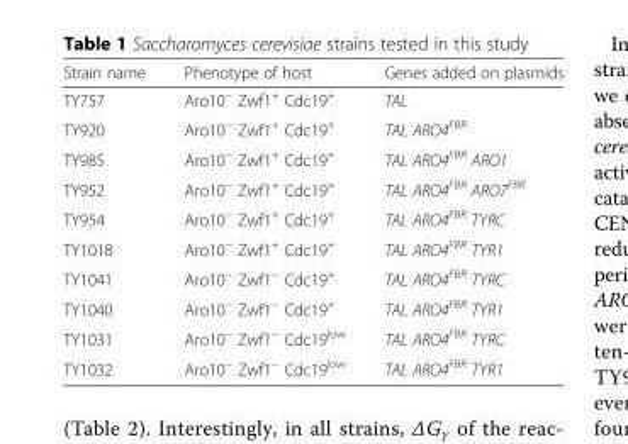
<table><thead><tr><td>Strain name</td><td>Phenotype of host</td><td>Genes added on plasmids</td></tr></thead><tbody><tr><td>TY757</td><td>Aro10<sup>−</sup> Zwf1<sup>+</sup> Cdc19<sup>+</sup></td><td>TAL</td></tr><tr><td>TY920</td><td>Aro10<sup>−</sup> Zwf1<sup>+</sup> Cdc19<sup>+</sup></td><td>TAL ARO4<sup>FBR</sup></td></tr><tr><td>TY985</td><td>Aro10<sup>−</sup> Zwf1<sup>+</sup> Cdc19<sup>+</sup></td><td>TAL ARO4<sup>FBR</sup> ARO1</td></tr><tr><td>TY952</td><td>Aro10<sup>−</sup> Zwf1<sup>+</sup> Cdc19<sup>+</sup></td><td>TAL ARO4<sup>FBR</sup> ARO7<sup>FBR</sup></td></tr><tr><td>TY954</td><td>Aro10<sup>−</sup> Zwf1<sup>+</sup> Cdc19<sup>+</sup></td><td>TAL ARO4<sup>FBR</sup> TYRC</td></tr><tr><td>TY1018</td><td>Aro10<sup>−</sup> Zwf1<sup>+</sup> Cdc19<sup>+</sup></td><td>TAL ARO4<sup>FBR</sup> TYR1</td></tr><tr><td>TY1041</td><td>Aro10<sup>−</sup> Zwf1<sup>−</sup> Cdc19<sup>+</sup></td><td>TAL ARO4<sup>FBR</sup> TYRC</td></tr><tr><td>TY1040</td><td>Aro10<sup>−</sup> Zwf1<sup>−</sup> Cdc19<sup>+</sup></td><td>TAL ARO4<sup>FBR</sup> TYR1</td></tr><tr><td>TY1031</td><td>Aro10<sup>−</sup> Zwf1<sup>−</sup> Cdc19<sup>low</sup></td><td>TAL ARO4<sup>FBR</sup> TYRC</td></tr><tr><td>TY1032</td><td>Aro10<sup>−</sup> Zwf1<sup>−</sup> Cdc19<sup>low</sup></td><td>TAL ARO4<sup>FBR</sup> TYR1</td></tr></tbody></table>